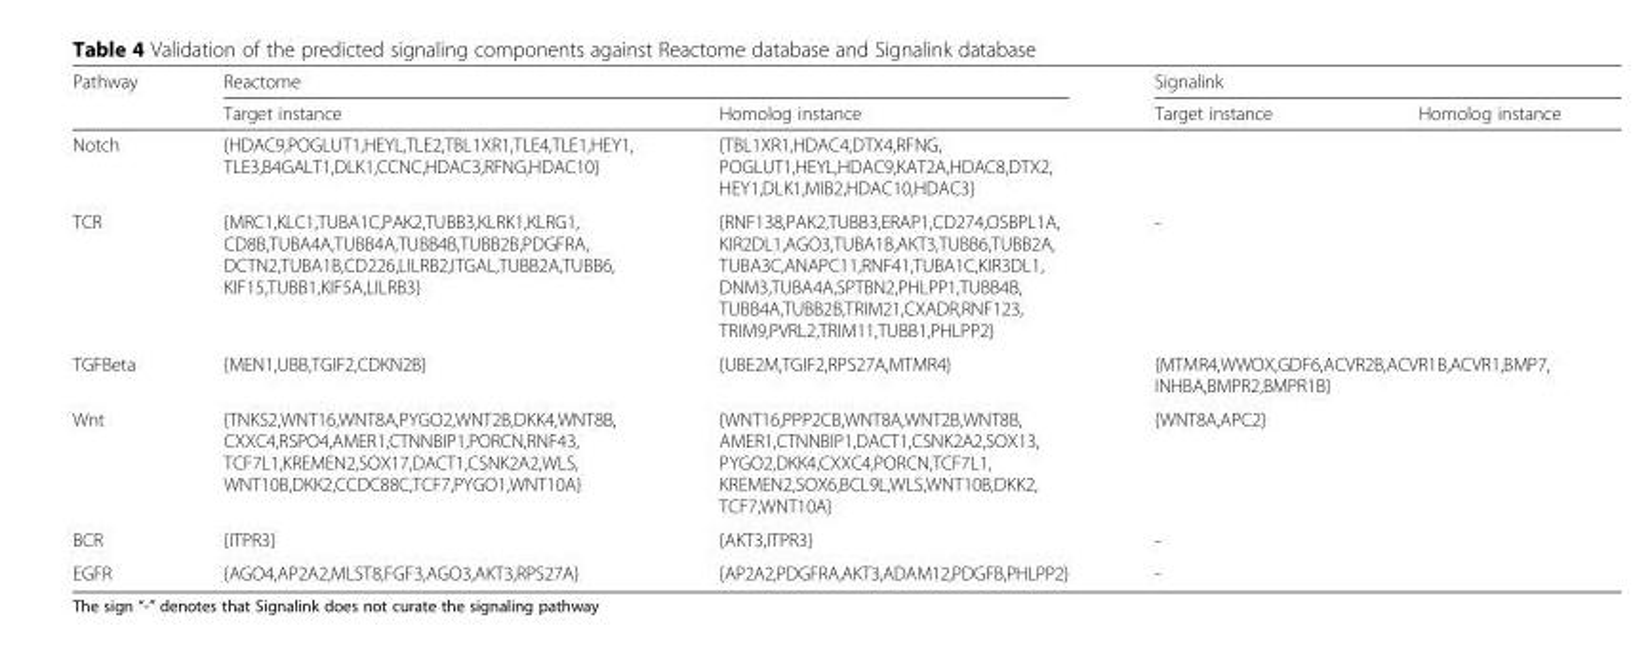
<table><thead><tr><td rowspan="2">Pathway</td><td colspan="2">Reactome</td><td colspan="2">Signalink</td></tr><tr><td>Target instance</td><td>Homolog instance</td><td>Target instance</td><td>Homolog instance</td></tr></thead><tbody><tr><td>Notch</td><td>{HDAC9,POGLUT1,HEYL,TLE2,TBL1XR1,TLE4,TLE1,HEY1, TLE3,B4GALT1,DLK1,CCNC,HDAC3,RFNG,HDAC10}</td><td>{TBL1XR1,HDAC4,DTX4,RFNG, POGLUT1,HEYL,HDAC9,KAT2A,HDAC8,DTX2, HEY1,DLK1,MIB2,HDAC10,HDAC3}</td><td></td><td></td></tr><tr><td>TCR</td><td>{MRC1,KLC1,TUBA1C,PAK2,TUBB3,KLRK1,KLRG1, CD8B,TUBA4A,TUBB4A,TUBB4B,TUBB2B,PDGFRA, DCTN2,TUBA1B,CD226,LILRB2,ITGAL,TUBB2A,TUBB6, KIF15,TUBB1,KIF5A,LILRB3}</td><td>{RNF138,PAK2,TUBB3,ERAP1,CD274,OSBPL1A, KIR2DL1,AGO3,TUBA1B,AKT3,TUBB6,TUBB2A, TUBA3C,ANAPC11,RNF41,TUBA1C,KIR3DL1, DNM3,TUBA4A,SPTBN2,PHLPP1,TUBB4B, TUBB4A,TUBB2B,TRIM21,CXADR,RNF123, TRIM9,PVRL2,TRIM11,TUBB1,PHLPP2}</td><td>-</td><td></td></tr><tr><td>TGFBeta</td><td>{MEN1,UBB,TGIF2,CDKN2B}</td><td>{UBE2M,TGIF2,RPS27A,MTMR4}</td><td colspan="2">{MTMR4,WWOX,GDF6,ACVR2B,ACVR1B,ACVR1,BMP7, INHBA,BMPR2,BMPR1B}</td></tr><tr><td>Wnt</td><td>{TNKS2,WNT16,WNT8A,PYGO2,WNT2B,DKK4,WNT8B, CXXC4,RSPO4,AMER1,CTNNBIP1,PORCN,RNF43, TCF7L1,KREMEN2,SOX17,DACT1,CSNK2A2,WLS, WNT10B,DKK2,CCDC88C,TCF7,PYGO1,WNT10A}</td><td>{WNT16,PPP2CB,WNT8A,WNT2B,WNT8B, AMER1,CTNNBIP1,DACT1,CSNK2A2,SOX13, PYGO2,DKK4,CXXC4,PORCN,TCF7L1, KREMEN2,SOX6,BCL9L,WLS,WNT10B,DKK2, TCF7,WNT10A}</td><td>{WNT8A,APC2}</td><td></td></tr><tr><td>BCR</td><td>{ITPR3}</td><td>{AKT3,ITPR3}</td><td>-</td><td></td></tr><tr><td>EGFR</td><td>{AGO4,AP2A2,MLST8,FGF3,AGO3,AKT3,RPS27A}</td><td>{AP2A2,PDGFRA,AKT3,ADAM12,PDGFB,PHLPP2}</td><td>-</td><td></td></tr></tbody></table>